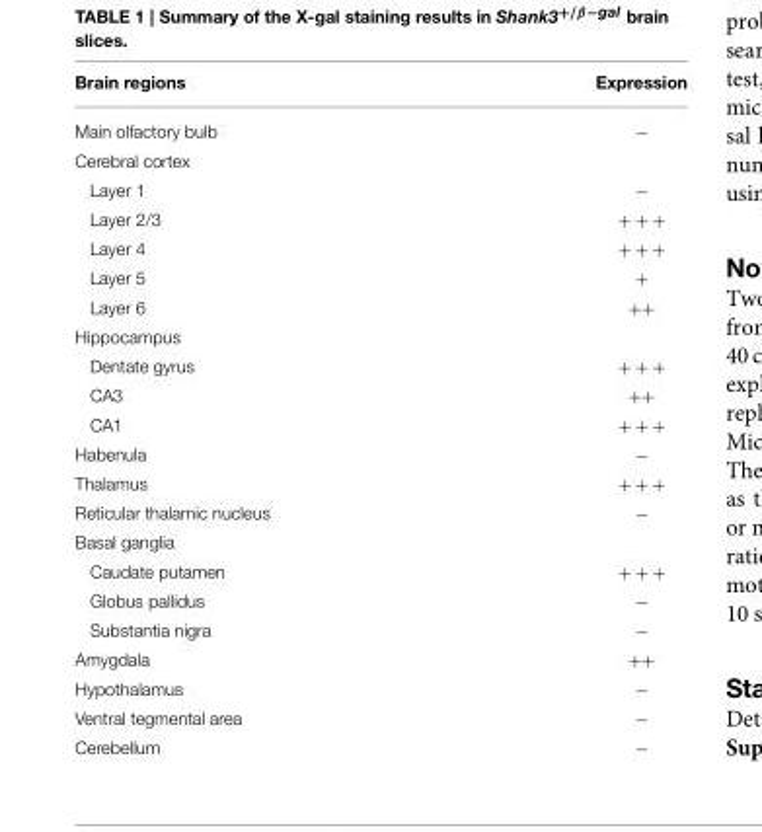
<table><thead><tr><td>Brain regions</td><td>Expression</td></tr></thead><tbody><tr><td>Main olfactory bulb</td><td>−</td></tr><tr><td colspan="2">Cerebral cortex</td></tr><tr><td>Layer 1</td><td>−</td></tr><tr><td>Layer 2/3</td><td>+ + +</td></tr><tr><td>Layer 4</td><td>+ + +</td></tr><tr><td>Layer 5</td><td>+</td></tr><tr><td>Layer 6</td><td>++</td></tr><tr><td colspan="2">Hippocampus</td></tr><tr><td>Dentate gyrus</td><td>+ + +</td></tr><tr><td>CA3</td><td>++</td></tr><tr><td>CA1</td><td>+ + +</td></tr><tr><td>Habenula</td><td>−</td></tr><tr><td>Thalamus</td><td>+ + +</td></tr><tr><td>Reticular thalamic nucleus</td><td>−</td></tr><tr><td colspan="2">Basal ganglia</td></tr><tr><td>Caudate putamen</td><td>+ + +</td></tr><tr><td>Globus pallidus</td><td>−</td></tr><tr><td>Substantia nigra</td><td>−</td></tr><tr><td>Amygdala</td><td>++</td></tr><tr><td>Hypothalamus</td><td>−</td></tr><tr><td>Ventral tegmental area</td><td>−</td></tr><tr><td>Cerebellum</td><td>−</td></tr></tbody></table>